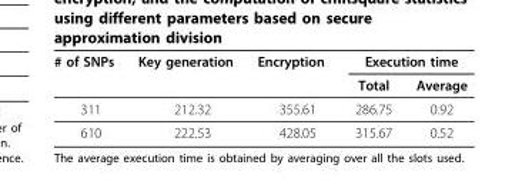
<table><thead><tr><td rowspan="2"># of SNPs</td><td rowspan="2">Key generation</td><td rowspan="2">Encryption</td><td colspan="2">Execution time</td></tr><tr><td>Total</td><td>Average</td></tr></thead><tbody><tr><td>311</td><td>212.32</td><td>355.61</td><td>286.75</td><td>0.92</td></tr><tr><td>610</td><td>222.53</td><td>428.05</td><td>315.67</td><td>0.52</td></tr></tbody></table>